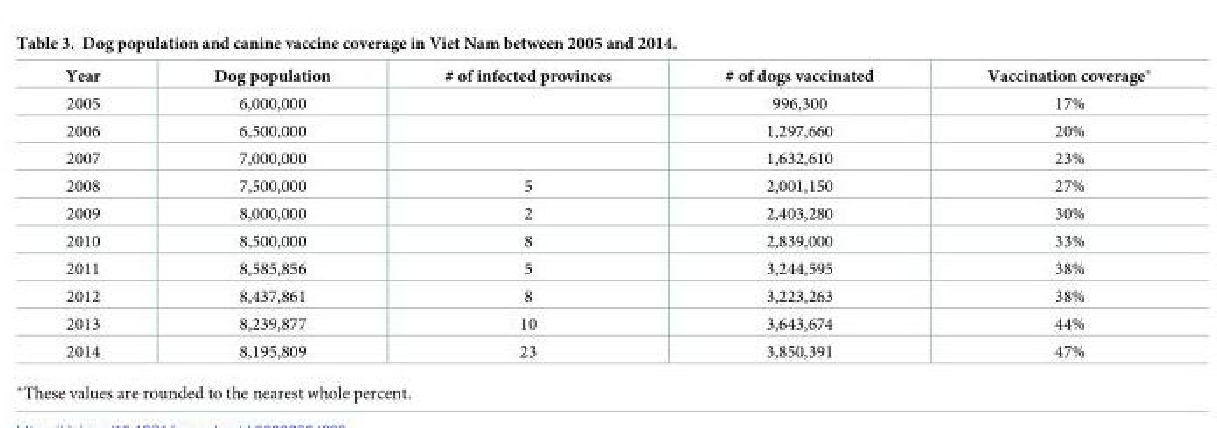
<table><thead><tr><td>Year</td><td>Dog population</td><td># of infected provinces</td><td># of dogs vaccinated</td><td>Vaccination coverage*</td></tr></thead><tbody><tr><td>2005</td><td>6,000,000</td><td></td><td>996,300</td><td>17%</td></tr><tr><td>2006</td><td>6,500,000</td><td></td><td>1,297,660</td><td>20%</td></tr><tr><td>2007</td><td>7,000,000</td><td></td><td>1,632,610</td><td>23%</td></tr><tr><td>2008</td><td>7,500,000</td><td>5</td><td>2,001,150</td><td>27%</td></tr><tr><td>2009</td><td>8,000,000</td><td>2</td><td>2,403,280</td><td>30%</td></tr><tr><td>2010</td><td>8,500,000</td><td>8</td><td>2,839,000</td><td>33%</td></tr><tr><td>2011</td><td>8,585,856</td><td>5</td><td>3,244,595</td><td>38%</td></tr><tr><td>2012</td><td>8,437,861</td><td>8</td><td>3,223,263</td><td>38%</td></tr><tr><td>2013</td><td>8,239,877</td><td>10</td><td>3,643,674</td><td>44%</td></tr><tr><td>2014</td><td>8,195,809</td><td>23</td><td>3,850,391</td><td>47%</td></tr></tbody></table>